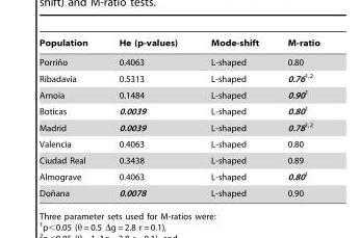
<table><thead><tr><td>Population</td><td>He (p-values)</td><td>Mode-shift</td><td>M-ratio</td></tr></thead><tbody><tr><td>Porrin˜o</td><td>0.4063</td><td>L-shaped</td><td>0.80</td></tr><tr><td>Ribadavia</td><td>0.5313</td><td>L-shaped</td><td>0.761<sup>,</sup>2</td></tr><tr><td>Arnoia</td><td>0.1484</td><td>L-shaped</td><td>0.901</td></tr><tr><td>Boticas</td><td>0.0039</td><td>L-shaped</td><td>0.801</td></tr><tr><td>Madrid</td><td>0.0039</td><td>L-shaped</td><td>0.781<sup>,</sup>2</td></tr><tr><td>Valencia</td><td>0.4063</td><td>L-shaped</td><td>0.80</td></tr><tr><td>Ciudad Real</td><td>0.3438</td><td>L-shaped</td><td>0.89</td></tr><tr><td>Almograve</td><td>0.4063</td><td>L-shaped</td><td>0.801</td></tr><tr><td>Don˜ana</td><td>0.0078</td><td>L-shaped</td><td>0.90</td></tr></tbody></table>